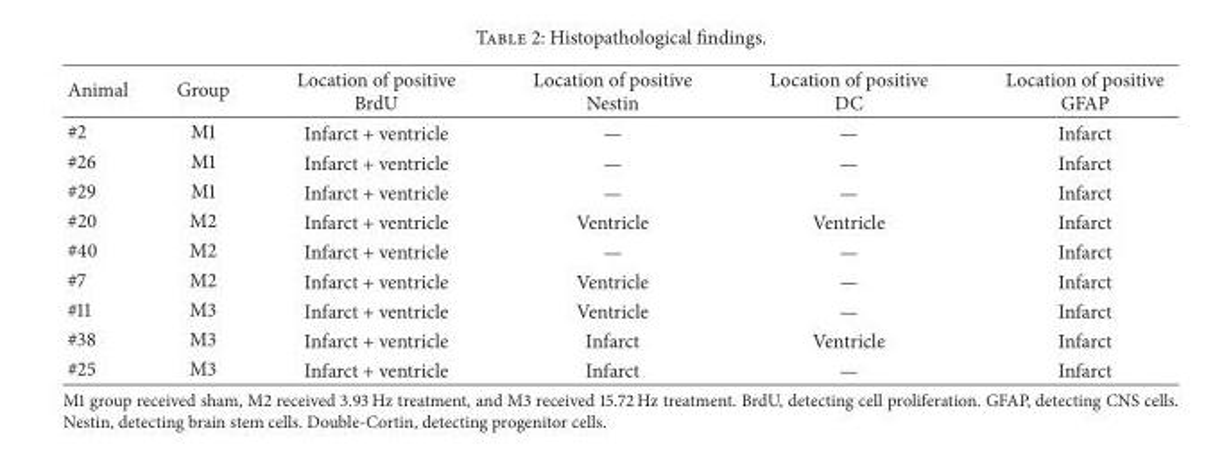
<table><thead><tr><td>Animal</td><td>Group</td><td>Location of positive BrdU</td><td>Location of positive Nestin</td><td>Location of positive DC</td><td>Location of positive GFAP</td></tr></thead><tbody><tr><td>#2</td><td>M1</td><td>Infarct + ventricle</td><td>—</td><td>—</td><td>Infarct</td></tr><tr><td>#26</td><td>M1</td><td>Infarct + ventricle</td><td>—</td><td>—</td><td>Infarct</td></tr><tr><td>#29</td><td>M1</td><td>Infarct + ventricle</td><td>—</td><td>—</td><td>Infarct</td></tr><tr><td>#20</td><td>M2</td><td>Infarct + ventricle</td><td>Ventricle</td><td>Ventricle</td><td>Infarct</td></tr><tr><td>#40</td><td>M2</td><td>Infarct + ventricle</td><td>—</td><td>—</td><td>Infarct</td></tr><tr><td>#7</td><td>M2</td><td>Infarct + ventricle</td><td>Ventricle</td><td>—</td><td>Infarct</td></tr><tr><td>#11</td><td>M3</td><td>Infarct + ventricle</td><td>Ventricle</td><td>—</td><td>Infarct</td></tr><tr><td>#38</td><td>M3</td><td>Infarct + ventricle</td><td>Infarct</td><td>Ventricle</td><td>Infarct</td></tr><tr><td>#25</td><td>M3</td><td>Infarct + ventricle</td><td>Infarct</td><td>—</td><td>Infarct</td></tr></tbody></table>